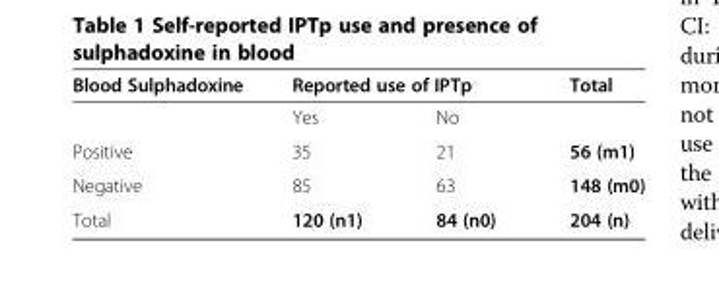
<table><thead><tr><td rowspan="2">Blood Sulphadoxine</td><td colspan="2">Reported use of IPTp</td><td rowspan="2">Total</td></tr><tr><td>Yes</td><td>No</td></tr></thead><tbody><tr><td>Positive</td><td>35</td><td>21</td><td>56 (m1)</td></tr><tr><td>Negative</td><td>85</td><td>63</td><td>148 (m0)</td></tr><tr><td>Total</td><td>120 (n1)</td><td>84 (n0)</td><td>204 (n)</td></tr></tbody></table>